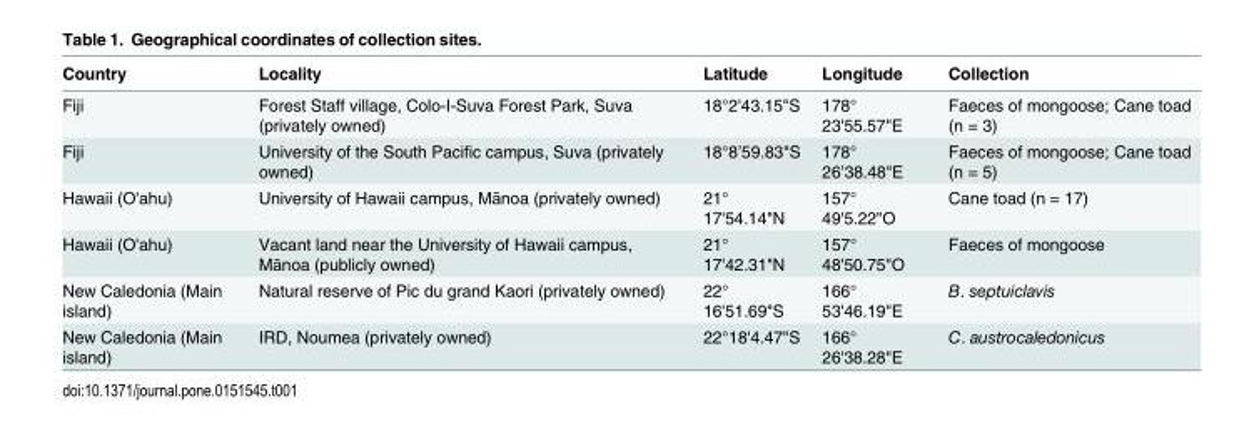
<table><thead><tr><td>Country</td><td>Locality</td><td>Latitude</td><td>Longitude</td><td>Collection</td></tr></thead><tbody><tr><td>Fiji</td><td>Forest Staff village, Colo-I-Suva Forest Park, Suva (privately owned)</td><td>18°2&#x27;43.15&quot;S</td><td>178° 23&#x27;55.57&quot;E</td><td>Faeces of mongoose; Cane toad (n = 3)</td></tr><tr><td>Fiji</td><td>University of the South Pacific campus, Suva (privately owned)</td><td>18°8’59.83&quot;S</td><td>178° 26’38.48&quot;E</td><td>Faeces of mongoose; Cane toad (n = 5)</td></tr><tr><td>Hawaii (O&#x27;ahu)</td><td>University of Hawaii campus, Mānoa (privately owned)</td><td>21° 17&#x27;54.14&quot;N</td><td>157° 49&#x27;5.22&quot;O</td><td>Cane toad (n = 17)</td></tr><tr><td>Hawaii (O&#x27;ahu)</td><td>Vacant land near the University of Hawaii campus, Mānoa (publicly owned)</td><td>21° 17&#x27;42.31&quot;N</td><td>157° 48&#x27;50.75&quot;O</td><td>Faeces of mongoose</td></tr><tr><td>New Caledonia (Main island)</td><td>Natural reserve of Pic du grand Kaori (privately owned)</td><td>22° 16&#x27;51.69&quot;S</td><td>166° 53&#x27;46.19&quot;E</td><td>B. septuiclavis</td></tr><tr><td>New Caledonia (Main island)</td><td>IRD, Noumea (privately owned)</td><td>22°18&#x27;4.47&quot;S</td><td>166° 26&#x27;38.28&quot;E</td><td>C. austrocaledonicus</td></tr></tbody></table>